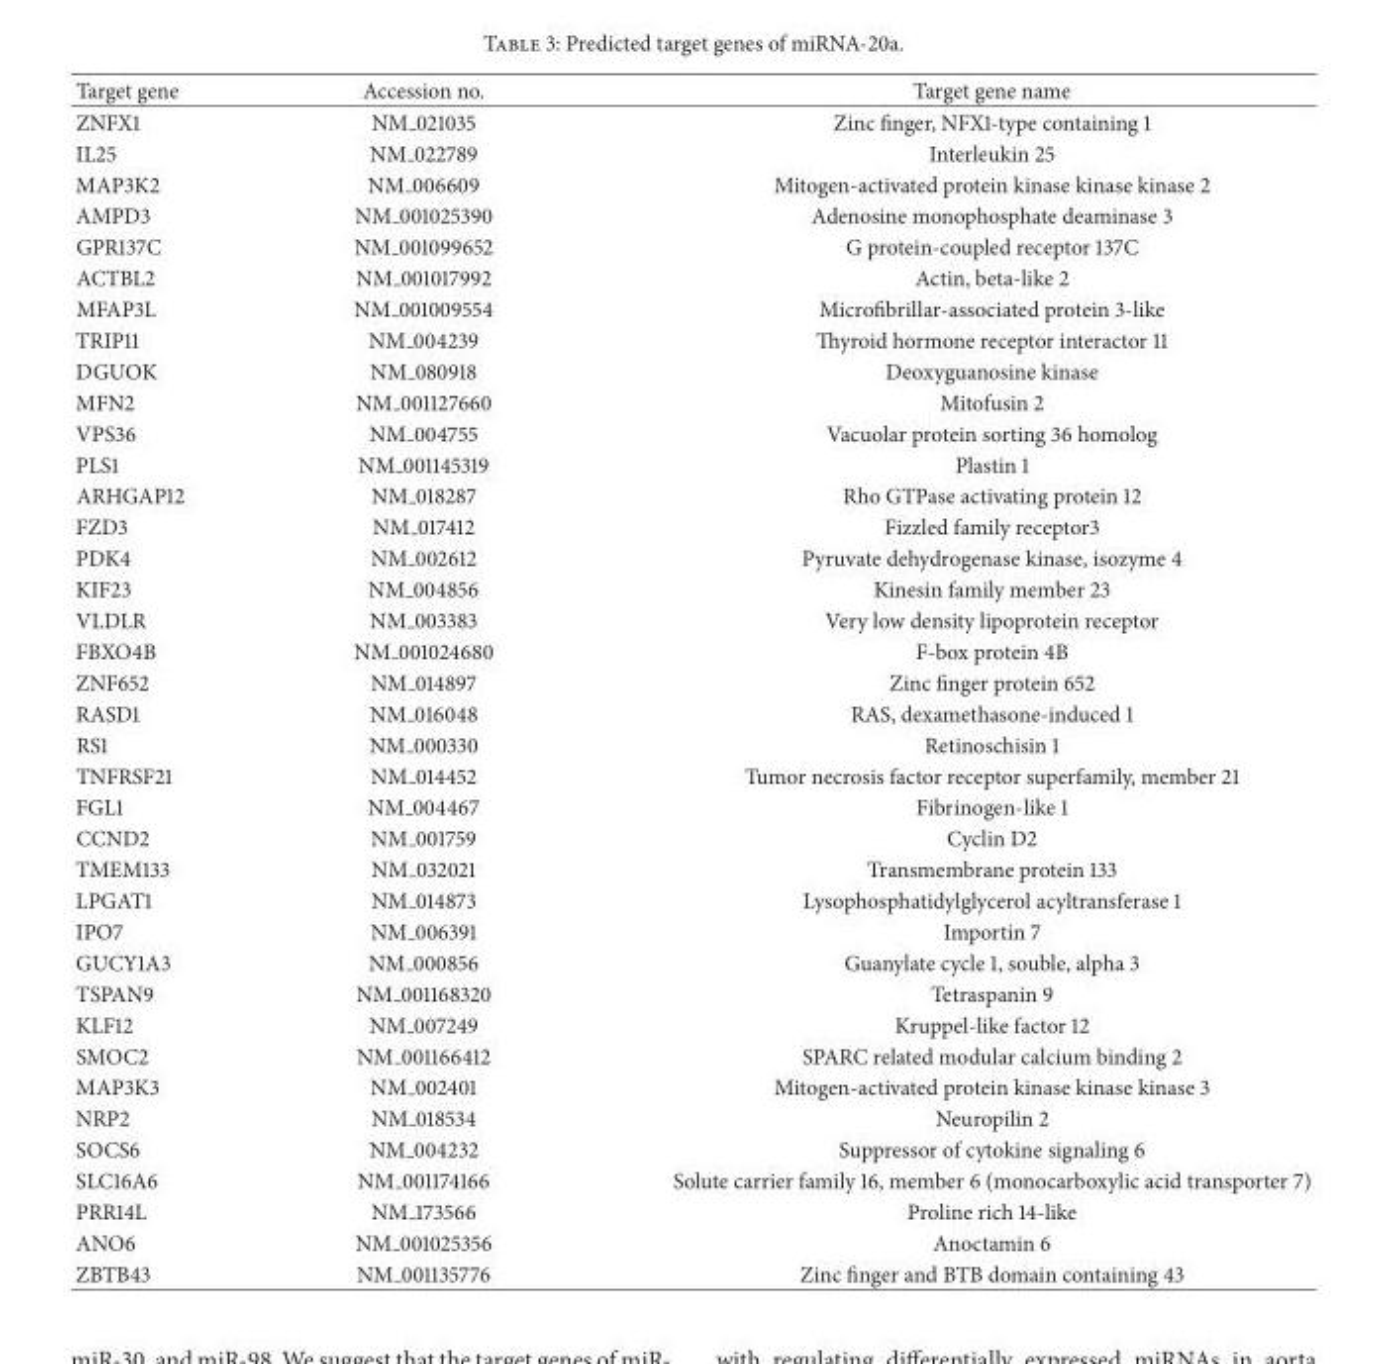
<table><thead><tr><td>Target gene</td><td>Accession no.</td><td>Target gene name</td></tr></thead><tbody><tr><td>ZNFX1</td><td>NM 021035</td><td>Zinc finger, NFX1-type containing 1</td></tr><tr><td>IL25</td><td>NM 022789</td><td>Interleukin 25</td></tr><tr><td>MAP3K2</td><td>NM 006609</td><td>Mitogen-activated protein kinase kinase kinase 2</td></tr><tr><td>AMPD3</td><td>NM 001025390</td><td>Adenosine monophosphate deaminase 3</td></tr><tr><td>GPR137C</td><td>NM 001099652</td><td>G protein-coupled receptor 137C</td></tr><tr><td>ACTBL2</td><td>NM 001017992</td><td>Actin, beta-like 2</td></tr><tr><td>MFAP3L</td><td>NM 001009554</td><td>Microfibrillar-associated protein 3-like</td></tr><tr><td>TRIP11</td><td>NM 004239</td><td>Thyroid hormone receptor interactor 11</td></tr><tr><td>DGUOK</td><td>NM 080918</td><td>Deoxyguanosine kinase</td></tr><tr><td>MFN2</td><td>NM 001127660</td><td>Mitofusin 2</td></tr><tr><td>VPS36</td><td>NM 004755</td><td>Vacuolar protein sorting 36 homolog</td></tr><tr><td>PLS1</td><td>NM 001145319</td><td>Plastin 1</td></tr><tr><td>ARHGAP12</td><td>NM 018287</td><td>Rho GTPase activating protein 12</td></tr><tr><td>FZD3</td><td>NM 017412</td><td>Fizzled family receptor3</td></tr><tr><td>PDK4</td><td>NM 002612</td><td>Pyruvate dehydrogenase kinase, isozyme 4</td></tr><tr><td>KIF23</td><td>NM 004856</td><td>Kinesin family member 23</td></tr><tr><td>VLDLR</td><td>NM 003383</td><td>Very low density lipoprotein receptor</td></tr><tr><td>FBXO4B</td><td>NM 001024680</td><td>F-box protein 4B</td></tr><tr><td>ZNF652</td><td>NM 014897</td><td>Zinc finger protein 652</td></tr><tr><td>RASD1</td><td>NM 016048</td><td>RAS, dexamethasone-induced 1</td></tr><tr><td>RS1</td><td>NM 000330</td><td>Retinoschisin 1</td></tr><tr><td>TNFRSF21</td><td>NM 014452</td><td>Tumor necrosis factor receptor superfamily, member 21</td></tr><tr><td>FGL1</td><td>NM 004467</td><td>Fibrinogen-like 1</td></tr><tr><td>CCND2</td><td>NM 001759</td><td>Cyclin D2</td></tr><tr><td>TMEM133</td><td>NM 032021</td><td>Transmembrane protein 133</td></tr><tr><td>LPGAT1</td><td>NM 014873</td><td>Lysophosphatidylglycerol acyltransferase 1</td></tr><tr><td>IPO7</td><td>NM 006391</td><td>Importin 7</td></tr><tr><td>GUCY1A3</td><td>NM 000856</td><td>Guanylate cycle 1, souble, alpha 3</td></tr><tr><td>TSPAN9</td><td>NM 001168320</td><td>Tetraspanin 9</td></tr><tr><td>KLF12</td><td>NM 007249</td><td>Kruppel-like factor 12</td></tr><tr><td>SMOC2</td><td>NM 001166412</td><td>SPARC related modular calcium binding 2</td></tr><tr><td>MAP3K3</td><td>NM 002401</td><td>Mitogen-activated protein kinase kinase kinase 3</td></tr><tr><td>NRP2</td><td>NM 018534</td><td>Neuropilin 2</td></tr><tr><td>SOCS6</td><td>NM 004232</td><td>Suppressor of cytokine signaling 6</td></tr><tr><td>SLC16A6</td><td>NM 001174166</td><td>Solute carrier family 16, member 6 (monocarboxylic acid transporter 7)</td></tr><tr><td>PRR14L</td><td>NM 173566</td><td>Proline rich 14-like</td></tr><tr><td>ANO6</td><td>NM 001025356</td><td>Anoctamin 6</td></tr><tr><td>ZBTB43</td><td>NM 001135776</td><td>Zinc finger and BTB domain containing 43</td></tr></tbody></table>